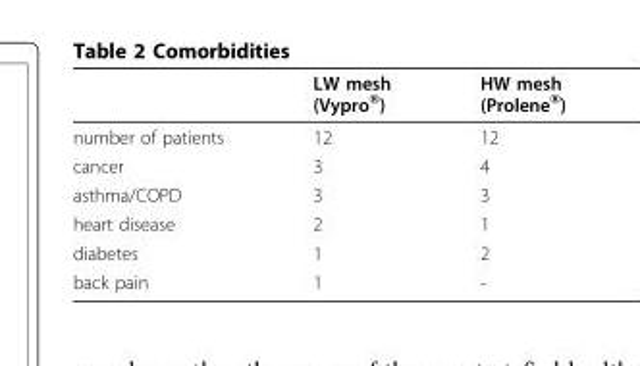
<table><thead><tr><td></td><td>LW mesh (Vypro<sup>®</sup>)</td><td>HW mesh (Prolene<sup>®</sup>)</td></tr></thead><tbody><tr><td>number of patients</td><td>12</td><td>12</td></tr><tr><td>cancer</td><td>3</td><td>4</td></tr><tr><td>asthma/COPD</td><td>3</td><td>3</td></tr><tr><td>heart disease</td><td>2</td><td>1</td></tr><tr><td>diabetes</td><td>1</td><td>2</td></tr><tr><td>back pain</td><td>1</td><td>-</td></tr></tbody></table>